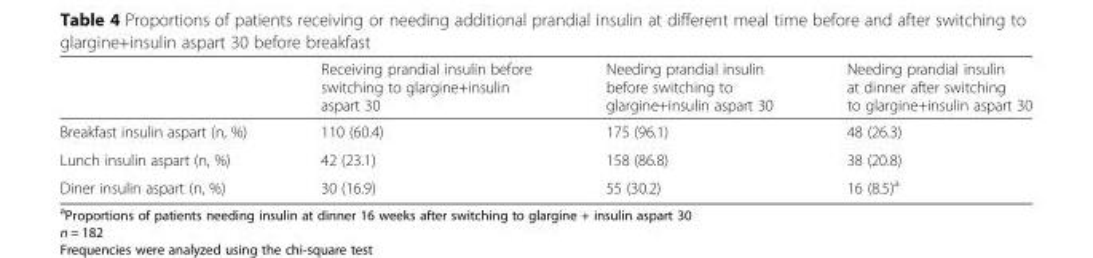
<table><thead><tr><td></td><td>Receiving prandial insulin before switching to glargine+insulin aspart 30</td><td>Needing prandial insulin before switching to glargine+insulin aspart 30</td><td>Needing prandial insulin at dinner after switching to glargine+insulin aspart 30</td></tr></thead><tbody><tr><td>Breakfast insulin aspart (n, %)</td><td>110 (60.4)</td><td>175 (96.1)</td><td>48 (26.3)</td></tr><tr><td>Lunch insulin aspart (n, %)</td><td>42 (23.1)</td><td>158 (86.8)</td><td>38 (20.8)</td></tr><tr><td>Diner insulin aspart (n, %)</td><td>30 (16.9)</td><td>55 (30.2)</td><td>16 (8.5)<sup>a</sup></td></tr></tbody></table>